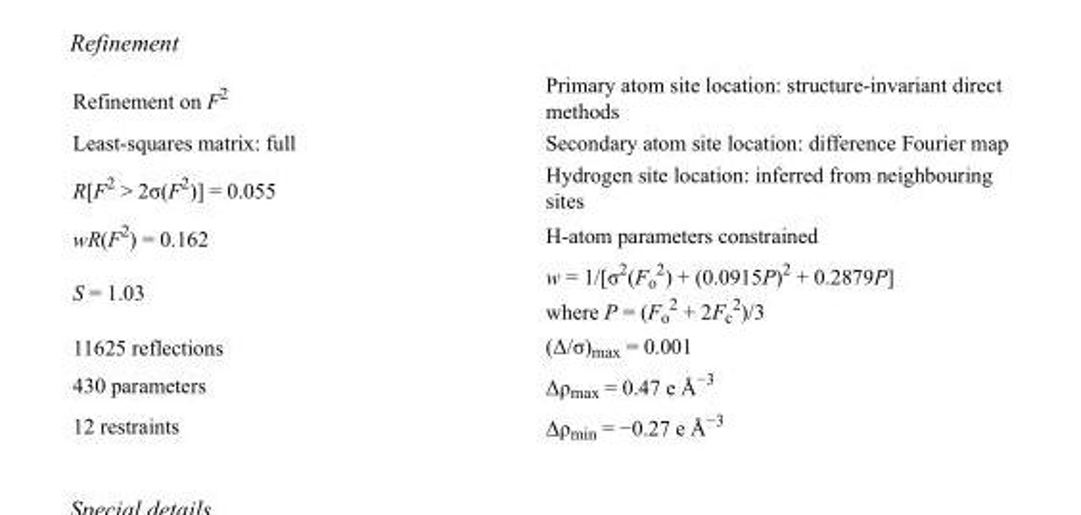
<table><tbody><tr><td>Refinement on F<sup>2</sup></td><td>Primary atom site location: structure-invariant direct methods</td></tr><tr><td>Least-squares matrix: full</td><td>Secondary atom site location: difference Fourier map</td></tr><tr><td>R[F<sup>2</sup> &gt; 2σ(F<sup>2</sup>)] = 0.055</td><td>Hydrogen site location: inferred from neighbouring sites</td></tr><tr><td>wR(F<sup>2</sup>) = 0.162</td><td>H-atom parameters constrained</td></tr><tr><td>S = 1.03</td><td>w = 1/[σ<sup>2</sup>(F<sub>o</sub> <sup>2</sup>) + (0.0915P)<sup>2</sup> + 0.2879P] where P = (F<sub>o</sub> <sup>2</sup> + 2F<sub>c</sub> <sup>2</sup>)/3</td></tr><tr><td>11625 reflections</td><td>(Δ/σ)<sub>max</sub> = 0.001</td></tr><tr><td>430 parameters</td><td>Δρ<sub>max</sub> = 0.47 e Å<sup>−3</sup></td></tr><tr><td>12 restraints</td><td>Δρ<sub>min</sub> = −0.27 e Å<sup>−3</sup></td></tr></tbody></table>